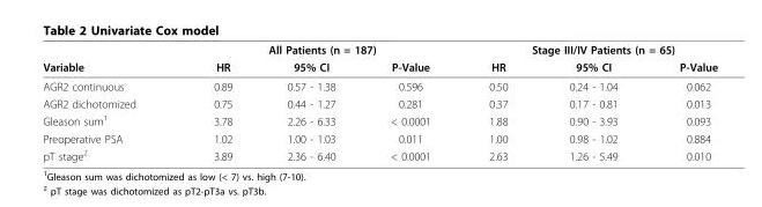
<table><thead><tr><td rowspan="2">Variable</td><td colspan="3">All Patients (n = 187)</td><td colspan="3">Stage III/IV Patients (n = 65)</td></tr><tr><td>HR</td><td>95% CI</td><td>P-Value</td><td>HR</td><td>95% CI</td><td>P-Value</td></tr></thead><tbody><tr><td>AGR2 continuous</td><td>0.89</td><td>0.57 - 1.38</td><td>0.596</td><td>0.50</td><td>0.24 - 1.04</td><td>0.062</td></tr><tr><td>AGR2 dichotomized</td><td>0.75</td><td>0.44 - 1.27</td><td>0.281</td><td>0.37</td><td>0.17 - 0.81</td><td>0.013</td></tr><tr><td>Gleason sum<sup>1</sup></td><td>3.78</td><td>2.26 - 6.33</td><td>&lt; 0.0001</td><td>1.88</td><td>0.90 - 3.93</td><td>0.093</td></tr><tr><td>Preoperative PSA</td><td>1.02</td><td>1.00 - 1.03</td><td>0.011</td><td>1.00</td><td>0.98 - 1.02</td><td>0.884</td></tr><tr><td>pT stage<sup>2</sup></td><td>3.89</td><td>2.36 - 6.40</td><td>&lt; 0.0001</td><td>2.63</td><td>1.26 - 5.49</td><td>0.010</td></tr></tbody></table>